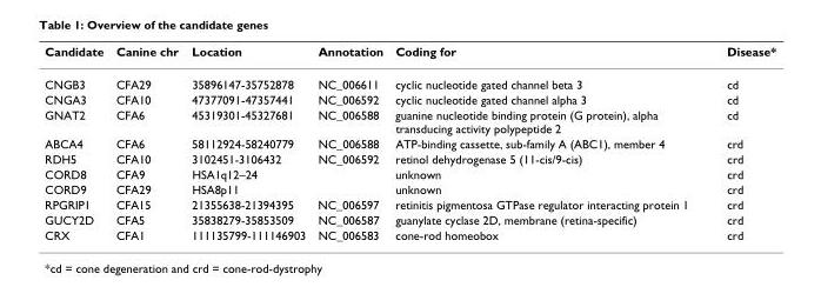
<table><thead><tr><td>Candidate</td><td>Canine chr</td><td>Location</td><td>Annotation</td><td>Coding for</td><td>Disease*</td></tr></thead><tbody><tr><td>CNGB3</td><td>CFA29</td><td>35896147-35752878</td><td>NC_006611</td><td>cyclic nucleotide gated channel beta 3</td><td>cd</td></tr><tr><td>CNGA3</td><td>CFA10</td><td>47377091-47357441</td><td>NC_006592</td><td>cyclic nucleotide gated channel alpha 3</td><td>cd</td></tr><tr><td>GNAT2</td><td>CFA6</td><td>45319301-45327681</td><td>NC_006588</td><td>guanine nucleotide binding protein (G protein), alpha transducing activity polypeptide 2</td><td>cd</td></tr><tr><td>ABCA4</td><td>CFA6</td><td>58112924-58240779</td><td>NC_006588</td><td>ATP-binding cassette, sub-family A (ABC1), member 4</td><td>crd</td></tr><tr><td>RDH5</td><td>CFA10</td><td>3102451-3106432</td><td>NC_006592</td><td>retinol dehydrogenase 5 (11-cis/9-cis)</td><td>crd</td></tr><tr><td>CORD8</td><td>CFA9</td><td>HSA1q12–24</td><td></td><td>unknown</td><td>crd</td></tr><tr><td>CORD9</td><td>CFA29</td><td>HSA8p11</td><td></td><td>unknown</td><td>crd</td></tr><tr><td>RPGRIP1</td><td>CFA15</td><td>21355638-21394395</td><td>NC_006597</td><td>retinitis pigmentosa GTPase regulator interacting protein 1</td><td>crd</td></tr><tr><td>GUCY2D</td><td>CFA5</td><td>35838279-35853509</td><td>NC_006587</td><td>guanylate cyclase 2D, membrane (retina-specific)</td><td>crd</td></tr><tr><td>CRX</td><td>CFA1</td><td>111135799-111146903</td><td>NC_006583</td><td>cone-rod homeobox</td><td>crd</td></tr></tbody></table>